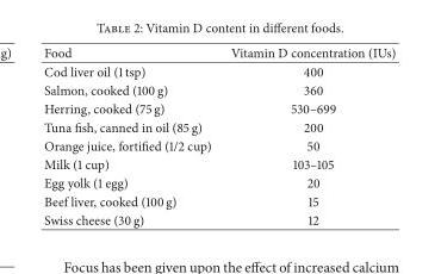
<table><thead><tr><td>Food</td><td>Vitamin D concentration (IUs)</td></tr></thead><tbody><tr><td>Cod liver oil (1 tsp)</td><td>400</td></tr><tr><td>Salmon, cooked (100 g)</td><td>360</td></tr><tr><td>Herring, cooked (75 g)</td><td>530–699</td></tr><tr><td>Tuna fish, canned in oil (85 g)</td><td>200</td></tr><tr><td>Orange juice, fortified (1/2 cup)</td><td>50</td></tr><tr><td>Milk (1 cup)</td><td>103–105</td></tr><tr><td>Egg yolk (1 egg)</td><td>20</td></tr><tr><td>Beef liver, cooked (100 g)</td><td>15</td></tr><tr><td>Swiss cheese (30 g)</td><td>12</td></tr></tbody></table>